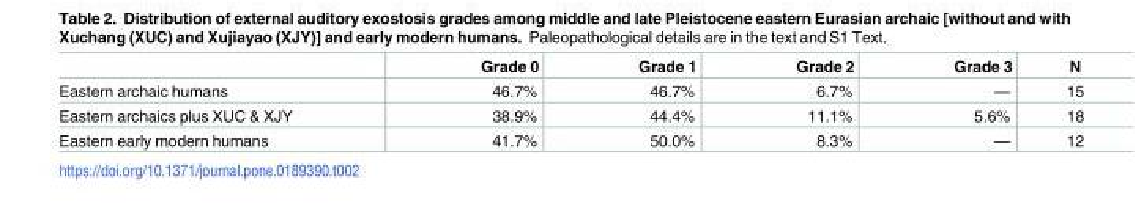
<table><thead><tr><td></td><td>Grade 0</td><td>Grade 1</td><td>Grade 2</td><td>Grade 3</td><td>N</td></tr></thead><tbody><tr><td>Eastern archaic humans</td><td>46.7%</td><td>46.7%</td><td>6.7%</td><td>—</td><td>15</td></tr><tr><td>Eastern archaics plus XUC &amp; XJY</td><td>38.9%</td><td>44.4%</td><td>11.1%</td><td>5.6%</td><td>18</td></tr><tr><td>Eastern early modern humans</td><td>41.7%</td><td>50.0%</td><td>8.3%</td><td>—</td><td>12</td></tr></tbody></table>